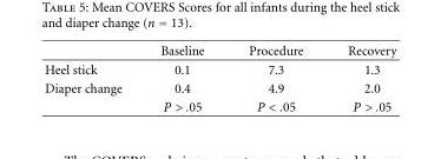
<table><thead><tr><td></td><td>Baseline</td><td>Procedure</td><td>Recovery</td></tr></thead><tbody><tr><td>Heel stick</td><td>0.1</td><td>7.3</td><td>1.3</td></tr><tr><td rowspan="2">Diaper change</td><td>0.4</td><td>4.9</td><td>2.0</td></tr><tr><td>P &gt; .05</td><td>P &lt; .05</td><td>P &gt; .05</td></tr></tbody></table>